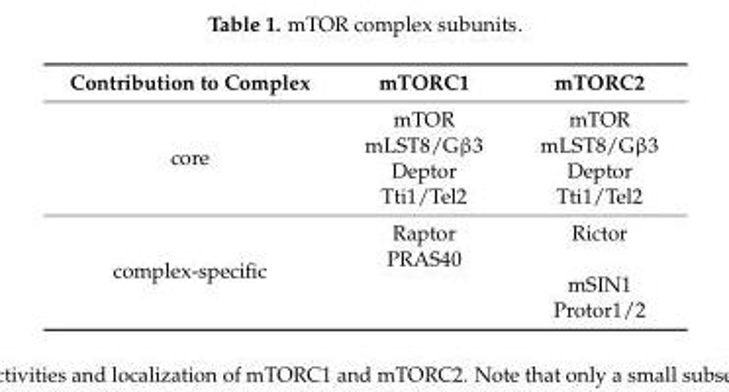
<table><thead><tr><td>Contribution to Complex</td><td>mTORC1</td><td>mTORC2</td></tr></thead><tbody><tr><td rowspan="4">core</td><td>mTOR</td><td>mTOR</td></tr><tr><td>mLST8/Gβ3</td><td>mLST8/Gβ3</td></tr><tr><td>Deptor</td><td>Deptor</td></tr><tr><td>Tti1/Tel2</td><td>Tti1/Tel2</td></tr><tr><td rowspan="4">complex-specific</td><td>Raptor</td><td>Rictor</td></tr><tr><td>PRAS40</td><td></td></tr><tr><td></td><td>mSIN1</td></tr><tr><td></td><td>Protor1/2</td></tr></tbody></table>